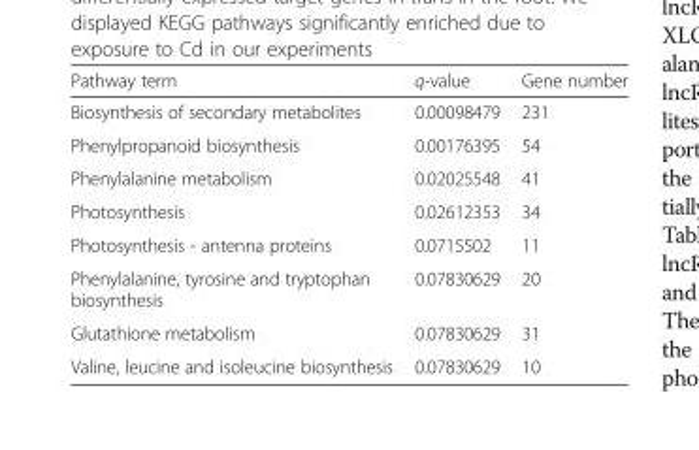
<table><thead><tr><td>Pathway term</td><td>q-value</td><td>Gene number</td></tr></thead><tbody><tr><td>Biosynthesis of secondary metabolites</td><td>0.00098479</td><td>231</td></tr><tr><td>Phenylpropanoid biosynthesis</td><td>0.00176395</td><td>54</td></tr><tr><td>Phenylalanine metabolism</td><td>0.02025548</td><td>41</td></tr><tr><td>Photosynthesis</td><td>0.02612353</td><td>34</td></tr><tr><td>Photosynthesis - antenna proteins</td><td>0.0715502</td><td>11</td></tr><tr><td>Phenylalanine, tyrosine and tryptophan biosynthesis</td><td>0.07830629</td><td>20</td></tr><tr><td>Glutathione metabolism</td><td>0.07830629</td><td>31</td></tr><tr><td>Valine, leucine and isoleucine biosynthesis</td><td>0.07830629</td><td>10</td></tr></tbody></table>